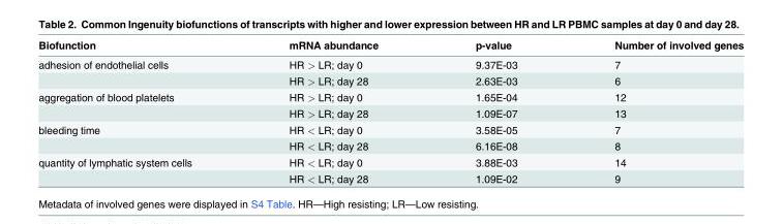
<table><thead><tr><td>Biofunction</td><td>mRNA abundance</td><td>p-value</td><td>Number of involved genes</td></tr></thead><tbody><tr><td rowspan="2">adhesion of endothelial cells</td><td>HR &gt; LR; day 0</td><td>9.37E-03</td><td>7</td></tr><tr><td>HR &gt; LR; day 28</td><td>2.63E-03</td><td>6</td></tr><tr><td rowspan="2">aggregation of blood platelets</td><td>HR &gt; LR; day 0</td><td>1.65E-04</td><td>12</td></tr><tr><td>HR &gt; LR; day 28</td><td>1.09E-07</td><td>13</td></tr><tr><td rowspan="2">bleeding time</td><td>HR &lt; LR; day 0</td><td>3.58E-05</td><td>7</td></tr><tr><td>HR &lt; LR; day 28</td><td>6.16E-08</td><td>8</td></tr><tr><td rowspan="2">quantity of lymphatic system cells</td><td>HR &lt; LR; day 0</td><td>3.88E-03</td><td>14</td></tr><tr><td>HR &lt; LR; day 28</td><td>1.09E-02</td><td>9</td></tr></tbody></table>